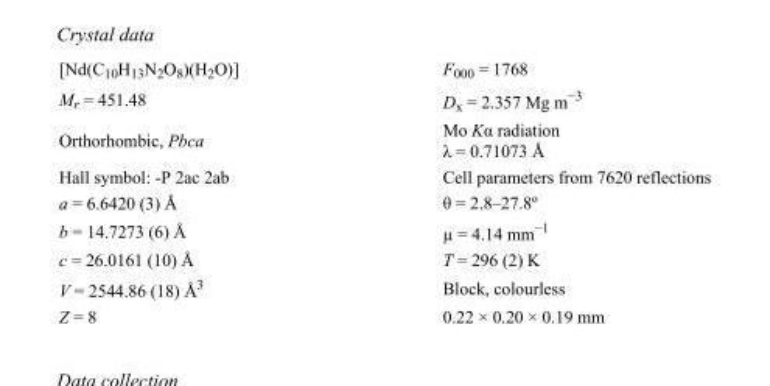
<table><tbody><tr><td>[Nd(C<sub>10</sub>H<sub>13</sub>N<sub>2</sub>O<sub>8</sub>)(H<sub>2</sub>O)]</td><td>F<sub>000</sub> = 1768</td></tr><tr><td>M<sub>r</sub> = 451.48</td><td>D<sub>x</sub> = 2.357 Mg m<sup>−3</sup></td></tr><tr><td>Orthorhombic, Pbca</td><td>Mo Kα radiation λ = 0.71073 Å</td></tr><tr><td>Hall symbol: -P 2ac 2ab</td><td>Cell parameters from 7620 reflections</td></tr><tr><td>a = 6.6420 (3) Å</td><td>θ = 2.8–27.8º</td></tr><tr><td>b = 14.7273 (6) Å</td><td>µ = 4.14 mm<sup>−1</sup></td></tr><tr><td>c = 26.0161 (10) Å</td><td>T = 296 (2) K</td></tr><tr><td>V = 2544.86 (18) Å<sup>3</sup></td><td>Block, colourless</td></tr><tr><td>Z = 8</td><td>0.22 × 0.20 × 0.19 mm</td></tr></tbody></table>